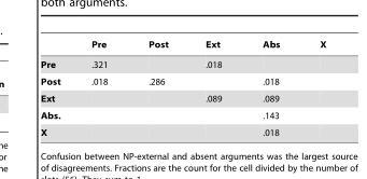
<table><thead><tr><td></td><td>Pre</td><td>Post</td><td>Ext</td><td>Abs</td><td>X</td></tr></thead><tbody><tr><td>Pre</td><td>.321</td><td></td><td>.018</td><td></td><td></td></tr><tr><td>Post</td><td>.018</td><td>.286</td><td></td><td>.018</td><td></td></tr><tr><td>Ext</td><td></td><td></td><td>.089</td><td>.089</td><td></td></tr><tr><td>Abs.</td><td></td><td></td><td></td><td>.143</td><td></td></tr><tr><td>X</td><td></td><td></td><td></td><td>.018</td><td></td></tr></tbody></table>